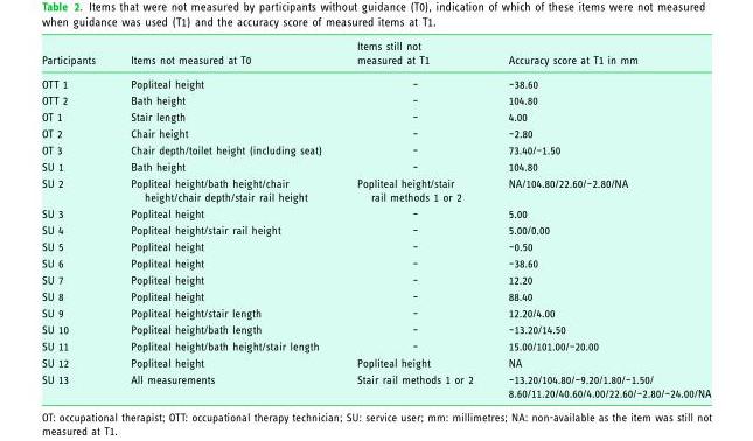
<table><thead><tr><td>Participants</td><td>Items not measured at T0</td><td>Items still not measured at T1</td><td>Accuracy score at T1 in mm</td></tr></thead><tbody><tr><td>OTT 1</td><td>Popliteal height</td><td>–</td><td>–38.60</td></tr><tr><td>OTT 2</td><td>Bath height</td><td>–</td><td>104.80</td></tr><tr><td>OT 1</td><td>Stair length</td><td>–</td><td>4.00</td></tr><tr><td>OT 2</td><td>Chair height</td><td>–</td><td>–2.80</td></tr><tr><td>OT 3</td><td>Chair depth/toilet height (including seat)</td><td>–</td><td>73.40/–1.50</td></tr><tr><td>SU 1</td><td>Bath height</td><td>–</td><td>104.80</td></tr><tr><td>SU 2</td><td>Popliteal height/bath height/chair height/chair depth/stair rail height</td><td>Popliteal height/stair rail methods 1 or 2</td><td>NA/104.80/22.60/–2.80/NA</td></tr><tr><td>SU 3</td><td>Popliteal height</td><td>–</td><td>5.00</td></tr><tr><td>SU 4</td><td>Popliteal height/stair rail height</td><td>–</td><td>5.00/0.00</td></tr><tr><td>SU 5</td><td>Popliteal height</td><td>–</td><td>–0.50</td></tr><tr><td>SU 6</td><td>Popliteal height</td><td>–</td><td>–38.60</td></tr><tr><td>SU 7</td><td>Popliteal height</td><td>–</td><td>12.20</td></tr><tr><td>SU 8</td><td>Popliteal height</td><td>–</td><td>88.40</td></tr><tr><td>SU 9</td><td>Popliteal height/stair length</td><td>–</td><td>12.20/4.00</td></tr><tr><td>SU 10</td><td>Popliteal height/bath length</td><td>–</td><td>–13.20/14.50</td></tr><tr><td>SU 11</td><td>Popliteal height/bath height/stair length</td><td>–</td><td>15.00/101.00/–20.00</td></tr><tr><td>SU 12</td><td>Popliteal height</td><td>Popliteal height</td><td>NA</td></tr><tr><td>SU 13</td><td>All measurements</td><td>Stair rail methods 1 or 2</td><td>–13.20/104.80/–9.20/1.80/–1.50/ 8.60/11.20/40.60/4.00/22.60/–2.80/–24.00/NA</td></tr></tbody></table>